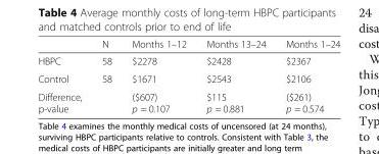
<table><thead><tr><td></td><td>N</td><td>Months 1–12</td><td>Months 13–24</td><td>Months 1–24</td></tr></thead><tbody><tr><td>HBPC</td><td>58</td><td>$2278</td><td>$2428</td><td>$2367</td></tr><tr><td>Control</td><td>58</td><td>$1671</td><td>$2543</td><td>$2106</td></tr><tr><td>Difference, p-value</td><td></td><td>($607) p = 0.107</td><td>$115 p = 0.881</td><td>($261) p = 0.574</td></tr></tbody></table>